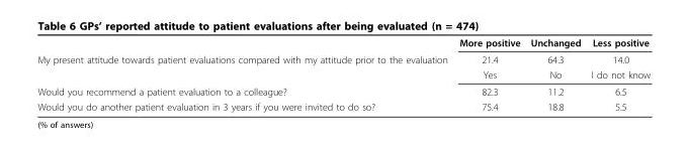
<table><thead><tr><td></td><td>More positive</td><td>Unchanged</td><td>Less positive</td></tr></thead><tbody><tr><td rowspan="2">My present attitude towards patient evaluations compared with my attitude prior to the evaluation</td><td>21.4</td><td>64.3</td><td>14.0</td></tr><tr><td>Yes</td><td>No</td><td>I do not know</td></tr><tr><td>Would you recommend a patient evaluation to a colleague?</td><td>82.3</td><td>11.2</td><td>6.5</td></tr><tr><td>Would you do another patient evaluation in 3 years if you were invited to do so?</td><td>75.4</td><td>18.8</td><td>5.5</td></tr></tbody></table>